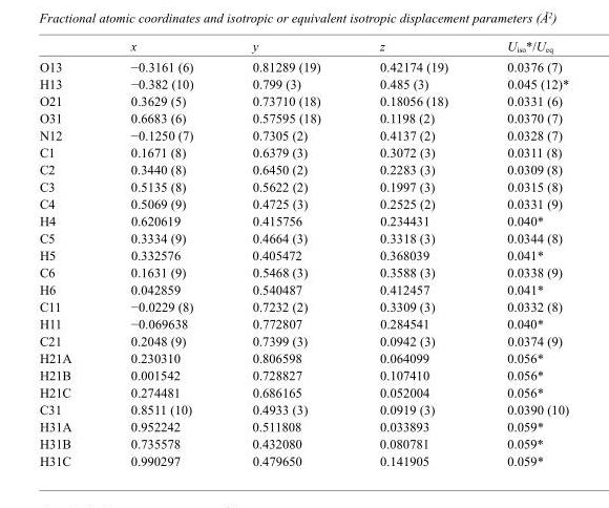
<table><thead><tr><td></td><td>x</td><td>y</td><td>z</td><td>U<sub>iso</sub>*/U<sub>eq</sub></td></tr></thead><tbody><tr><td>O13</td><td>−0.3161 (6)</td><td>0.81289 (19)</td><td>0.42174 (19)</td><td>0.0376 (7)</td></tr><tr><td>H13</td><td>−0.382 (10)</td><td>0.799 (3)</td><td>0.485 (3)</td><td>0.045 (12)*</td></tr><tr><td>O21</td><td>0.3629 (5)</td><td>0.73710 (18)</td><td>0.18056 (18)</td><td>0.0331 (6)</td></tr><tr><td>O31</td><td>0.6683 (6)</td><td>0.57595 (18)</td><td>0.1198 (2)</td><td>0.0370 (7)</td></tr><tr><td>N12</td><td>−0.1250 (7)</td><td>0.7305 (2)</td><td>0.4137 (2)</td><td>0.0328 (7)</td></tr><tr><td>C1</td><td>0.1671 (8)</td><td>0.6379 (3)</td><td>0.3072 (3)</td><td>0.0311 (8)</td></tr><tr><td>C2</td><td>0.3440 (8)</td><td>0.6450 (2)</td><td>0.2283 (3)</td><td>0.0309 (8)</td></tr><tr><td>C3</td><td>0.5135 (8)</td><td>0.5622 (2)</td><td>0.1997 (3)</td><td>0.0315 (8)</td></tr><tr><td>C4</td><td>0.5069 (9)</td><td>0.4725 (3)</td><td>0.2525 (2)</td><td>0.0331 (9)</td></tr><tr><td>H4</td><td>0.620619</td><td>0.415756</td><td>0.234431</td><td>0.040*</td></tr><tr><td>C5</td><td>0.3334 (9)</td><td>0.4664 (3)</td><td>0.3318 (3)</td><td>0.0344 (8)</td></tr><tr><td>H5</td><td>0.332576</td><td>0.405472</td><td>0.368039</td><td>0.041*</td></tr><tr><td>C6</td><td>0.1631 (9)</td><td>0.5468 (3)</td><td>0.3588 (3)</td><td>0.0338 (9)</td></tr><tr><td>H6</td><td>0.042859</td><td>0.540487</td><td>0.412457</td><td>0.041*</td></tr><tr><td>C11</td><td>−0.0229 (8)</td><td>0.7232 (2)</td><td>0.3309 (3)</td><td>0.0332 (8)</td></tr><tr><td>H11</td><td>−0.069638</td><td>0.772807</td><td>0.284541</td><td>0.040*</td></tr><tr><td>C21</td><td>0.2048 (9)</td><td>0.7399 (3)</td><td>0.0942 (3)</td><td>0.0374 (9)</td></tr><tr><td>H21A</td><td>0.230310</td><td>0.806598</td><td>0.064099</td><td>0.056*</td></tr><tr><td>H21B</td><td>0.001542</td><td>0.728827</td><td>0.107410</td><td>0.056*</td></tr><tr><td>H21C</td><td>0.274481</td><td>0.686165</td><td>0.052004</td><td>0.056*</td></tr><tr><td>C31</td><td>0.8511 (10)</td><td>0.4933 (3)</td><td>0.0919 (3)</td><td>0.0390 (10)</td></tr><tr><td>H31A</td><td>0.952242</td><td>0.511808</td><td>0.033893</td><td>0.059*</td></tr><tr><td>H31B</td><td>0.735578</td><td>0.432080</td><td>0.080781</td><td>0.059*</td></tr><tr><td>H31C</td><td>0.990297</td><td>0.479650</td><td>0.141905</td><td>0.059*</td></tr></tbody></table>